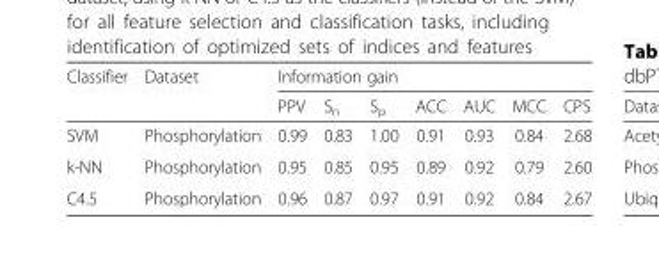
<table><thead><tr><td rowspan="2">Classifier</td><td rowspan="2">Dataset</td><td colspan="7">Information gain</td></tr><tr><td>PPV</td><td>S<sub>n</sub></td><td>S<sub>p</sub></td><td>ACC</td><td>AUC</td><td>MCC</td><td>CPS</td></tr></thead><tbody><tr><td>SVM</td><td>Phosphorylation</td><td>0.99</td><td>0.83</td><td>1.00</td><td>0.91</td><td>0.93</td><td>0.84</td><td>2.68</td></tr><tr><td>k-NN</td><td>Phosphorylation</td><td>0.95</td><td>0.85</td><td>0.95</td><td>0.89</td><td>0.92</td><td>0.79</td><td>2.60</td></tr><tr><td>C4.5</td><td>Phosphorylation</td><td>0.96</td><td>0.87</td><td>0.97</td><td>0.91</td><td>0.92</td><td>0.84</td><td>2.67</td></tr></tbody></table>